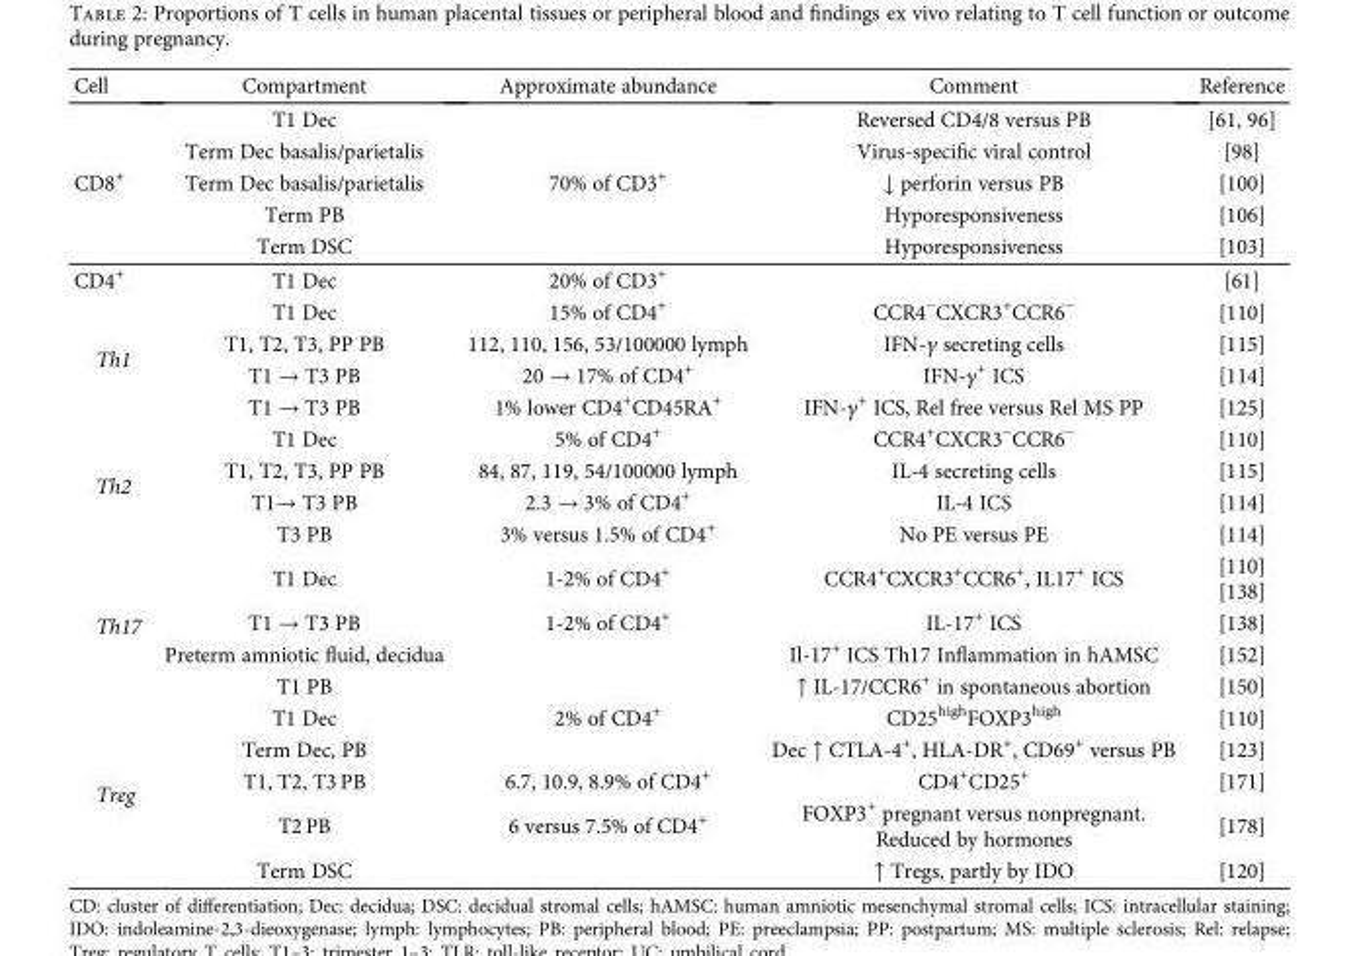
<table><thead><tr><td>Cell</td><td>Compartment</td><td>Approximate abundance</td><td>Comment</td><td>Reference</td></tr></thead><tbody><tr><td rowspan="5">CD8<sup>+</sup></td><td>T1 Dec</td><td rowspan="5">70% of CD3<sup>+</sup></td><td>Reversed CD4/8 versus PB</td><td>[61, 96]</td></tr><tr><td>Term Dec basalis/parietalis</td><td>Virus-specific viral control</td><td>[98]</td></tr><tr><td>Term Dec basalis/parietalis</td><td>↓ perforin versus PB</td><td>[100]</td></tr><tr><td>Term PB</td><td>Hyporesponsiveness</td><td>[106]</td></tr><tr><td>Term DSC</td><td>Hyporesponsiveness</td><td>[103]</td></tr><tr><td>CD4<sup>+</sup></td><td>T1 Dec</td><td>20% of CD3<sup>+</sup></td><td></td><td>[61]</td></tr><tr><td rowspan="4">Th1</td><td>T1 Dec</td><td>15% of CD4<sup>+</sup></td><td>CCR4<sup>−</sup>CXCR3<sup>+</sup>CCR6<sup>−</sup></td><td>[110]</td></tr><tr><td>T1, T2, T3, PP PB</td><td>112, 110, 156, 53/100000 lymph</td><td>IFN-γ secreting cells</td><td>[115]</td></tr><tr><td>T1 → T3 PB</td><td>20 → 17% of CD4<sup>+</sup></td><td>IFN-γ<sup>+</sup> ICS</td><td>[114]</td></tr><tr><td>T1 → T3 PB</td><td>1% lower CD4<sup>+</sup>CD45RA<sup>+</sup></td><td>IFN-γ<sup>+</sup> ICS, Rel free versus Rel MS PP</td><td>[125]</td></tr><tr><td rowspan="4">Th2</td><td>T1 Dec</td><td>5% of CD4<sup>+</sup></td><td>CCR4<sup>+</sup>CXCR3<sup>−</sup>CCR6<sup>−</sup></td><td>[110]</td></tr><tr><td>T1, T2, T3, PP PB</td><td>84, 87, 119, 54/100000 lymph</td><td>IL-4 secreting cells</td><td>[115]</td></tr><tr><td>T1→ T3 PB</td><td>2.3 → 3% of CD4<sup>+</sup></td><td>IL-4 ICS</td><td>[114]</td></tr><tr><td>T3 PB</td><td>3% versus 1.5% of CD4<sup>+</sup></td><td>No PE versus PE</td><td>[114]</td></tr><tr><td rowspan="4">Th17</td><td>T1 Dec</td><td>1-2% of CD4<sup>+</sup></td><td>CCR4<sup>+</sup>CXCR3<sup>+</sup>CCR6<sup>+</sup>, IL17<sup>+</sup> ICS</td><td>[110] [138]</td></tr><tr><td>T1 → T3 PB</td><td>1-2% of CD4<sup>+</sup></td><td>IL-17<sup>+</sup> ICS</td><td>[138]</td></tr><tr><td>Preterm amniotic fluid, decidua</td><td></td><td>Il-17<sup>+</sup> ICS Th17 Inflammation in hAMSC</td><td>[152]</td></tr><tr><td>T1 PB</td><td></td><td>↑ IL-17/CCR6<sup>+</sup> in spontaneous abortion</td><td>[150]</td></tr><tr><td rowspan="5">Treg</td><td>T1 Dec</td><td>2% of CD4<sup>+</sup></td><td>CD25<sup>high</sup>FOXP3<sup>high</sup></td><td>[110]</td></tr><tr><td>Term Dec, PB</td><td></td><td>Dec ↑ CTLA-4<sup>+</sup>, HLA-DR<sup>+</sup>, CD69<sup>+</sup> versus PB</td><td>[123]</td></tr><tr><td>T1, T2, T3 PB</td><td>6.7, 10.9, 8.9% of CD4<sup>+</sup></td><td>CD4<sup>+</sup>CD25<sup>+</sup></td><td>[171]</td></tr><tr><td>T2 PB</td><td>6 versus 7.5% of CD4<sup>+</sup></td><td>FOXP3<sup>+</sup> pregnant versus nonpregnant. Reduced by hormones</td><td>[178]</td></tr><tr><td>Term DSC</td><td></td><td>↑ Tregs, partly by IDO</td><td>[120]</td></tr></tbody></table>